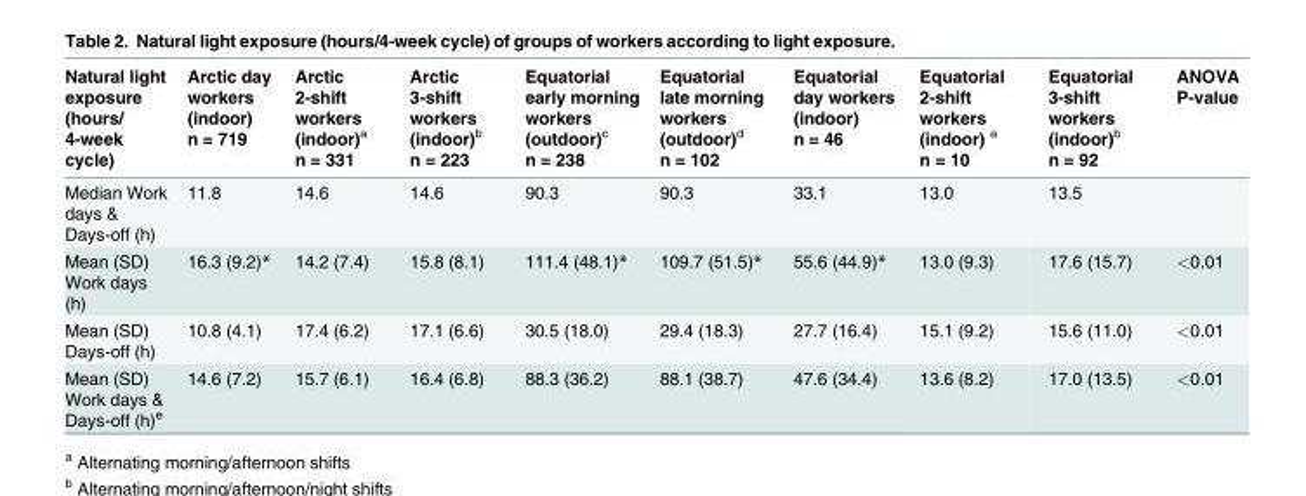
<table><thead><tr><td>Natural light exposure (hours/ 4-week cycle)</td><td>Arctic day workers (indoor) n = 719</td><td>Arctic 2-shift workers (indoor)<sup>a</sup> n = 331</td><td>Arctic 3-shift workers (indoor)<sup>b</sup> n = 223</td><td>Equatorial early morning workers (outdoor)<sup>c</sup> n = 238</td><td>Equatorial late morning workers (outdoor)<sup>d</sup> n = 102</td><td>Equatorial day workers (indoor) n = 46</td><td>Equatorial 2-shift workers (indoor) <sup>a</sup> n = 10</td><td>Equatorial 3-shift workers (indoor)<sup>b</sup> n = 92</td><td>ANOVA P-value</td></tr></thead><tbody><tr><td>Median Work days &amp; Days-off (h)</td><td>11.8</td><td>14.6</td><td>14.6</td><td>90.3</td><td>90.3</td><td>33.1</td><td>13.0</td><td>13.5</td><td></td></tr><tr><td>Mean (SD) Work days (h)</td><td>16.3 (9.2)*</td><td>14.2 (7.4)</td><td>15.8 (8.1)</td><td>111.4 (48.1)*</td><td>109.7 (51.5)*</td><td>55.6 (44.9)*</td><td>13.0 (9.3)</td><td>17.6 (15.7)</td><td>&lt;0.01</td></tr><tr><td>Mean (SD) Days-off (h)</td><td>10.8 (4.1)</td><td>17.4 (6.2)</td><td>17.1 (6.6)</td><td>30.5 (18.0)</td><td>29.4 (18.3)</td><td>27.7 (16.4)</td><td>15.1 (9.2)</td><td>15.6 (11.0)</td><td>&lt;0.01</td></tr><tr><td>Mean (SD) Work days &amp; Days-off (h)<sup>e</sup></td><td>14.6 (7.2)</td><td>15.7 (6.1)</td><td>16.4 (6.8)</td><td>88.3 (36.2)</td><td>88.1 (38.7)</td><td>47.6 (34.4)</td><td>13.6 (8.2)</td><td>17.0 (13.5)</td><td>&lt;0.01</td></tr></tbody></table>